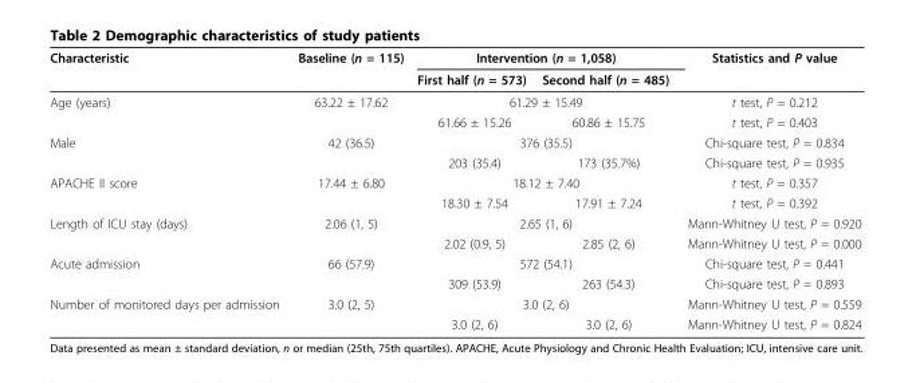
<table><thead><tr><td rowspan="2">Characteristic</td><td rowspan="2">Baseline (n = 115)</td><td colspan="2">Intervention (n = 1,058)</td><td rowspan="2">Statistics and P value</td></tr><tr><td>First half (n = 573)</td><td>Second half (n = 485)</td></tr></thead><tbody><tr><td rowspan="2">Age (years)</td><td>63.22 ± 17.62</td><td colspan="2">61.29 ± 15.49</td><td>t test, P = 0.212</td></tr><tr><td></td><td>61.66 ± 15.26</td><td>60.86 ± 15.75</td><td>t test, P = 0.403</td></tr><tr><td rowspan="2">Male</td><td>42 (36.5)</td><td colspan="2">376 (35.5)</td><td>Chi-square test, P = 0.834</td></tr><tr><td></td><td>203 (35.4)</td><td>173 (35.7%)</td><td>Chi-square test, P = 0.935</td></tr><tr><td rowspan="2">APACHE II score</td><td>17.44 ± 6.80</td><td colspan="2">18.12 ± 7.40</td><td>t test, P = 0.357</td></tr><tr><td></td><td>18.30 ± 7.54</td><td>17.91 ± 7.24</td><td>t test, P = 0.392</td></tr><tr><td rowspan="2">Length of ICU stay (days)</td><td>2.06 (1, 5)</td><td colspan="2">2.65 (1, 6)</td><td>Mann-Whitney U test, P = 0.920</td></tr><tr><td></td><td>2.02 (0.9, 5)</td><td>2.85 (2, 6)</td><td>Mann-Whitney U test, P = 0.000</td></tr><tr><td rowspan="2">Acute admission</td><td>66 (57.9)</td><td colspan="2">572 (54.1)</td><td>Chi-square test, P = 0.441</td></tr><tr><td></td><td>309 (53.9)</td><td>263 (54.3)</td><td>Chi-square test, P = 0.893</td></tr><tr><td rowspan="2">Number of monitored days per admission</td><td>3.0 (2, 5)</td><td colspan="2">3.0 (2, 6)</td><td>Mann-Whitney U test, P = 0.559</td></tr><tr><td></td><td>3.0 (2, 6)</td><td>3.0 (2, 6)</td><td>Mann-Whitney U test, P = 0.824</td></tr></tbody></table>